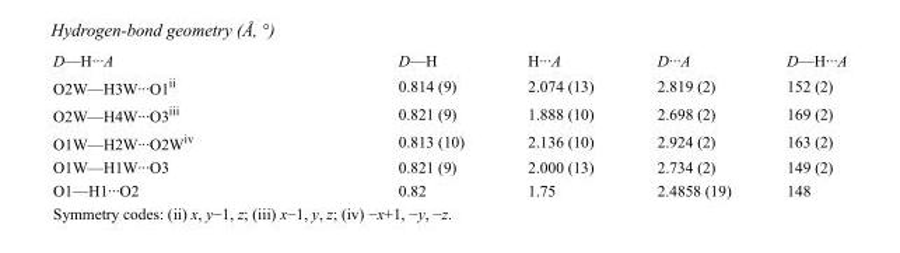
<table><tbody><tr><td>D—H···A</td><td>D—H</td><td>H···A</td><td>D···A</td><td>D—H···A</td></tr><tr><td>O2W—H3W···O1<sup>ii</sup></td><td>0.814 (9)</td><td>2.074 (13)</td><td>2.819 (2)</td><td>152 (2)</td></tr><tr><td>O2W—H4W···O3<sup>iii</sup></td><td>0.821 (9)</td><td>1.888 (10)</td><td>2.698 (2)</td><td>169 (2)</td></tr><tr><td>O1W—H2W···O2W<sup>iv</sup></td><td>0.813 (10)</td><td>2.136 (10)</td><td>2.924 (2)</td><td>163 (2)</td></tr><tr><td>O1W—H1W···O3</td><td>0.821 (9)</td><td>2.000 (13)</td><td>2.734 (2)</td><td>149 (2)</td></tr><tr><td>O1—H1···O2</td><td>0.82</td><td>1.75</td><td>2.4858 (19)</td><td>148</td></tr></tbody></table>